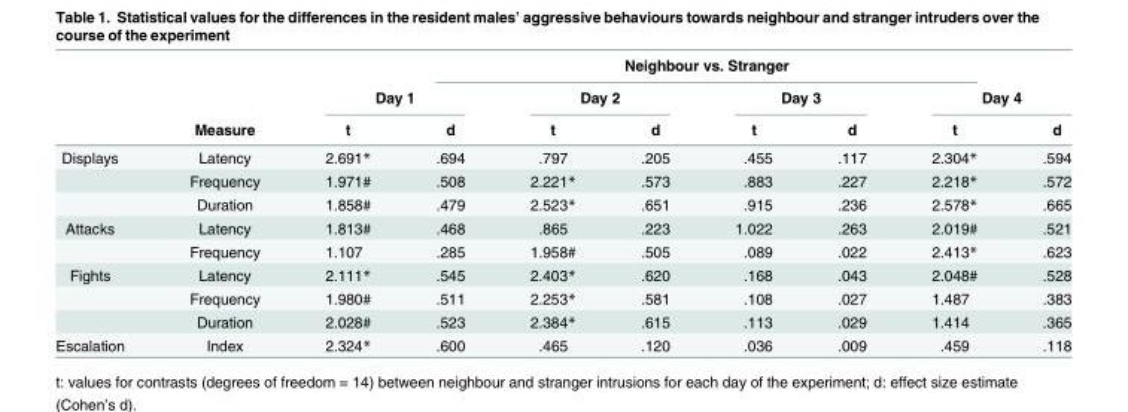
<table><thead><tr><td rowspan="3"></td><td rowspan="3">Measure</td><td></td><td colspan="6">Neighbour vs. Stranger</td><td></td></tr><tr><td colspan="2">Day 1</td><td colspan="2">Day 2</td><td colspan="2">Day 3</td><td colspan="2">Day 4</td></tr><tr><td>t</td><td>d</td><td>t</td><td>d</td><td>t</td><td>d</td><td>t</td><td>d</td></tr></thead><tbody><tr><td rowspan="3">Displays</td><td>Latency</td><td>2.691*</td><td>.694</td><td>.797</td><td>.205</td><td>.455</td><td>.117</td><td>2.304*</td><td>.594</td></tr><tr><td>Frequency</td><td>1.971#</td><td>.508</td><td>2.221*</td><td>.573</td><td>.883</td><td>.227</td><td>2.218*</td><td>.572</td></tr><tr><td>Duration</td><td>1.858#</td><td>.479</td><td>2.523*</td><td>.651</td><td>.915</td><td>.236</td><td>2.578*</td><td>.665</td></tr><tr><td rowspan="2">Attacks</td><td>Latency</td><td>1.813#</td><td>.468</td><td>.865</td><td>.223</td><td>1.022</td><td>.263</td><td>2.019#</td><td>.521</td></tr><tr><td>Frequency</td><td>1.107</td><td>.285</td><td>1.958#</td><td>.505</td><td>.089</td><td>.022</td><td>2.413*</td><td>.623</td></tr><tr><td rowspan="3">Fights</td><td>Latency</td><td>2.111*</td><td>.545</td><td>2.403*</td><td>.620</td><td>.168</td><td>.043</td><td>2.048#</td><td>.528</td></tr><tr><td>Frequency</td><td>1.980#</td><td>.511</td><td>2.253*</td><td>.581</td><td>.108</td><td>.027</td><td>1.487</td><td>.383</td></tr><tr><td>Duration</td><td>2.028#</td><td>.523</td><td>2.384*</td><td>.615</td><td>.113</td><td>.029</td><td>1.414</td><td>.365</td></tr><tr><td>Escalation</td><td>Index</td><td>2.324*</td><td>.600</td><td>.465</td><td>.120</td><td>.036</td><td>.009</td><td>.459</td><td>.118</td></tr></tbody></table>